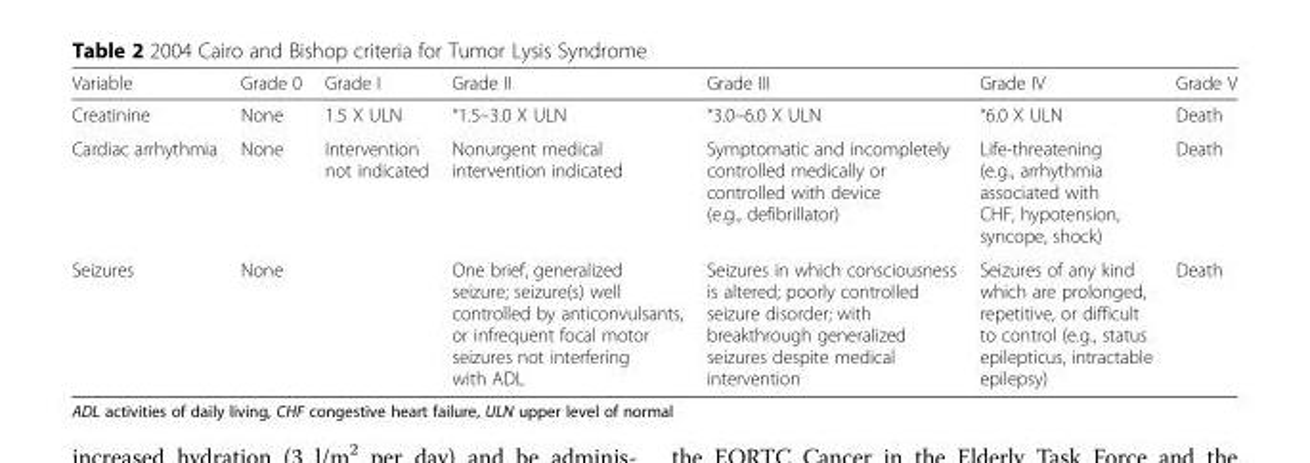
<table><thead><tr><td>Variable</td><td>Grade 0</td><td>Grade I</td><td>Grade II</td><td>Grade III</td><td>Grade IV</td><td>Grade V</td></tr></thead><tbody><tr><td>Creatinine</td><td>None</td><td>1.5 X ULN</td><td>˃1.5–3.0 X ULN</td><td>˃3.0–6.0 X ULN</td><td>˃6.0 X ULN</td><td>Death</td></tr><tr><td>Cardiac arrhythmia</td><td>None</td><td>Intervention not indicated</td><td>Nonurgent medical intervention indicated</td><td>Symptomatic and incompletely controlled medically or controlled with device (e.g., defibrillator)</td><td>Life-threatening (e.g., arrhythmia associated with CHF, hypotension, syncope, shock)</td><td>Death</td></tr><tr><td>Seizures</td><td>None</td><td></td><td>One brief, generalized seizure; seizure(s) well controlled by anticonvulsants, or infrequent focal motor seizures not interfering with ADL</td><td>Seizures in which consciousness is altered; poorly controlled seizure disorder; with breakthrough generalized seizures despite medical intervention</td><td>Seizures of any kind which are prolonged, repetitive, or difficult to control (e.g., status epilepticus, intractable epilepsy)</td><td>Death</td></tr></tbody></table>